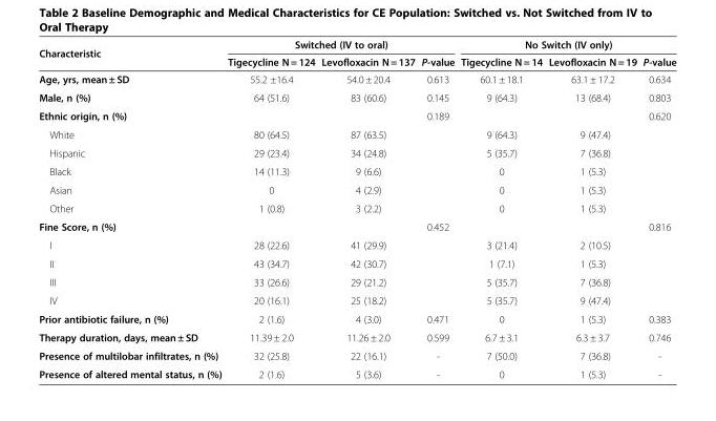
<table><thead><tr><td rowspan="2">Characteristic</td><td colspan="3">Switched (IV to oral)</td><td colspan="3">No Switch (IV only)</td></tr><tr><td>Tigecycline N = 124</td><td>Levofloxacin N = 137</td><td>P-value</td><td>Tigecycline N = 14</td><td>Levofloxacin N = 19</td><td>P-value</td></tr></thead><tbody><tr><td>Age, yrs, mean ± SD</td><td>55.2 ±16.4</td><td>54.0 ± 20.4</td><td>0.613</td><td>60.1 ± 18.1</td><td>63.1 ± 17.2</td><td>0.634</td></tr><tr><td>Male, n (%)</td><td>64 (51.6)</td><td>83 (60.6)</td><td>0.145</td><td>9 (64.3)</td><td>13 (68.4)</td><td>0.803</td></tr><tr><td>Ethnic origin, n (%)</td><td></td><td></td><td>0.189</td><td></td><td></td><td>0.620</td></tr><tr><td>White</td><td>80 (64.5)</td><td>87 (63.5)</td><td></td><td>9 (64.3)</td><td>9 (47.4)</td><td></td></tr><tr><td>Hispanic</td><td>29 (23.4)</td><td>34 (24.8)</td><td></td><td>5 (35.7)</td><td>7 (36.8)</td><td></td></tr><tr><td>Black</td><td>14 (11.3)</td><td>9 (6.6)</td><td></td><td>0</td><td>1 (5.3)</td><td></td></tr><tr><td>Asian</td><td>0</td><td>4 (2.9)</td><td></td><td>0</td><td>1 (5.3)</td><td></td></tr><tr><td>Other</td><td>1 (0.8)</td><td>3 (2.2)</td><td></td><td>0</td><td>1 (5.3)</td><td></td></tr><tr><td>Fine Score, n (%)</td><td></td><td></td><td>0.452</td><td></td><td></td><td>0.816</td></tr><tr><td>I</td><td>28 (22.6)</td><td>41 (29.9)</td><td></td><td>3 (21.4)</td><td>2 (10.5)</td><td></td></tr><tr><td>II</td><td>43 (34.7)</td><td>42 (30.7)</td><td></td><td>1 (7.1)</td><td>1 (5.3)</td><td></td></tr><tr><td>III</td><td>33 (26.6)</td><td>29 (21.2)</td><td></td><td>5 (35.7)</td><td>7 (36.8)</td><td></td></tr><tr><td>IV</td><td>20 (16.1)</td><td>25 (18.2)</td><td></td><td>5 (35.7)</td><td>9 (47.4)</td><td></td></tr><tr><td>Prior antibiotic failure, n (%)</td><td>2 (1.6)</td><td>4 (3.0)</td><td>0.471</td><td>0</td><td>1 (5.3)</td><td>0.383</td></tr><tr><td>Therapy duration, days, mean ± SD</td><td>11.39 ± 2.0</td><td>11.26 ± 2.0</td><td>0.599</td><td>6.7 ± 3.1</td><td>6.3 ± 3.7</td><td>0.746</td></tr><tr><td>Presence of multilobar infiltrates, n (%)</td><td>32 (25.8)</td><td>22 (16.1)</td><td>-</td><td>7 (50.0)</td><td>7 (36.8)</td><td>-</td></tr><tr><td>Presence of altered mental status, n (%)</td><td>2 (1.6)</td><td>5 (3.6)</td><td>-</td><td>0</td><td>1 (5.3)</td><td>-</td></tr></tbody></table>